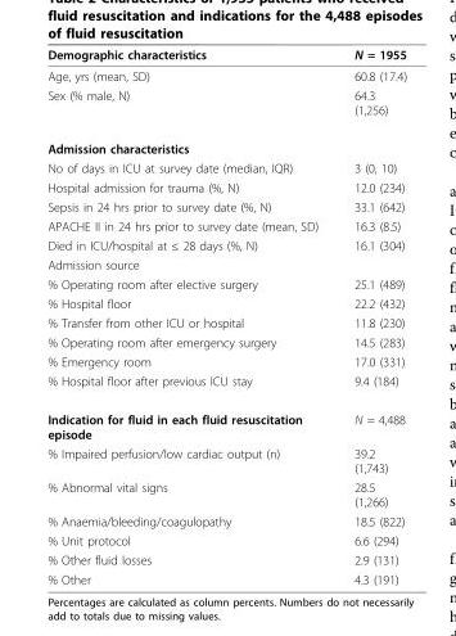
<table><thead><tr><td>Demographic characteristics</td><td>N = 1955</td></tr></thead><tbody><tr><td>Age, yrs (mean, SD)</td><td>60.8 (17.4)</td></tr><tr><td>Sex (% male, N)</td><td>64.3 (1,256)</td></tr><tr><td colspan="2">Admission characteristics</td></tr><tr><td>No of days in ICU at survey date (median, IQR)</td><td>3 (0, 10)</td></tr><tr><td>Hospital admission for trauma (%, N)</td><td>12.0 (234)</td></tr><tr><td>Sepsis in 24 hrs prior to survey date (%, N)</td><td>33.1 (642)</td></tr><tr><td>APACHE II in 24 hrs prior to survey date (mean, SD)</td><td>16.3 (8.5)</td></tr><tr><td>Died in ICU/hospital at ≤ 28 days (%, N)</td><td>16.1 (304)</td></tr><tr><td colspan="2">Admission source</td></tr><tr><td>% Operating room after elective surgery</td><td>25.1 (489)</td></tr><tr><td>% Hospital floor</td><td>22.2 (432)</td></tr><tr><td>% Transfer from other ICU or hospital</td><td>11.8 (230)</td></tr><tr><td>% Operating room after emergency surgery</td><td>14.5 (283)</td></tr><tr><td>% Emergency room</td><td>17.0 (331)</td></tr><tr><td>% Hospital floor after previous ICU stay</td><td>9.4 (184)</td></tr><tr><td>Indication for fluid in each fluid resuscitation episode</td><td>N = 4,488</td></tr><tr><td>% Impaired perfusion/low cardiac output (n)</td><td>39.2 (1,743)</td></tr><tr><td>% Abnormal vital signs</td><td>28.5 (1,266)</td></tr><tr><td>% Anaemia/bleeding/coagulopathy</td><td>18.5 (822)</td></tr><tr><td>% Unit protocol</td><td>6.6 (294)</td></tr><tr><td>% Other fluid losses</td><td>2.9 (131)</td></tr><tr><td>% Other</td><td>4.3 (191)</td></tr></tbody></table>